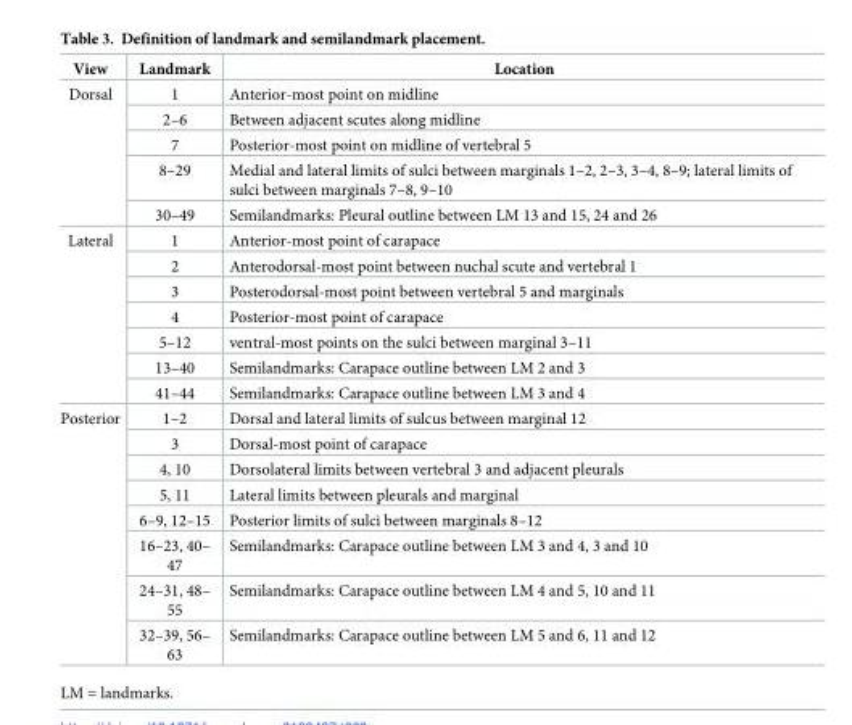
<table><thead><tr><td>View</td><td>Landmark</td><td>Location</td></tr></thead><tbody><tr><td rowspan="5">Dorsal</td><td>1</td><td>Anterior-most point on midline</td></tr><tr><td>2–6</td><td>Between adjacent scutes along midline</td></tr><tr><td>7</td><td>Posterior-most point on midline of vertebral 5</td></tr><tr><td>8–29</td><td>Medial and lateral limits of sulci between marginals 1–2, 2–3, 3–4, 8–9; lateral limits of sulci between marginals 7–8, 9–10</td></tr><tr><td>30–49</td><td>Semilandmarks: Pleural outline between LM 13 and 15, 24 and 26</td></tr><tr><td rowspan="7">Lateral</td><td>1</td><td>Anterior-most point of carapace</td></tr><tr><td>2</td><td>Anterodorsal-most point between nuchal scute and vertebral 1</td></tr><tr><td>3</td><td>Posterodorsal-most point between vertebral 5 and marginals</td></tr><tr><td>4</td><td>Posterior-most point of carapace</td></tr><tr><td>5–12</td><td>ventral-most points on the sulci between marginal 3–11</td></tr><tr><td>13–40</td><td>Semilandmarks: Carapace outline between LM 2 and 3</td></tr><tr><td>41–44</td><td>Semilandmarks: Carapace outline between LM 3 and 4</td></tr><tr><td rowspan="8">Posterior</td><td>1–2</td><td>Dorsal and lateral limits of sulcus between marginal 12</td></tr><tr><td>3</td><td>Dorsal-most point of carapace</td></tr><tr><td>4, 10</td><td>Dorsolateral limits between vertebral 3 and adjacent pleurals</td></tr><tr><td>5, 11</td><td>Lateral limits between pleurals and marginal</td></tr><tr><td>6–9, 12–15</td><td>Posterior limits of sulci between marginals 8–12</td></tr><tr><td>16–23, 40– 47</td><td>Semilandmarks: Carapace outline between LM 3 and 4, 3 and 10</td></tr><tr><td>24–31, 48– 55</td><td>Semilandmarks: Carapace outline between LM 4 and 5, 10 and 11</td></tr><tr><td>32–39, 56– 63</td><td>Semilandmarks: Carapace outline between LM 5 and 6, 11 and 12</td></tr></tbody></table>